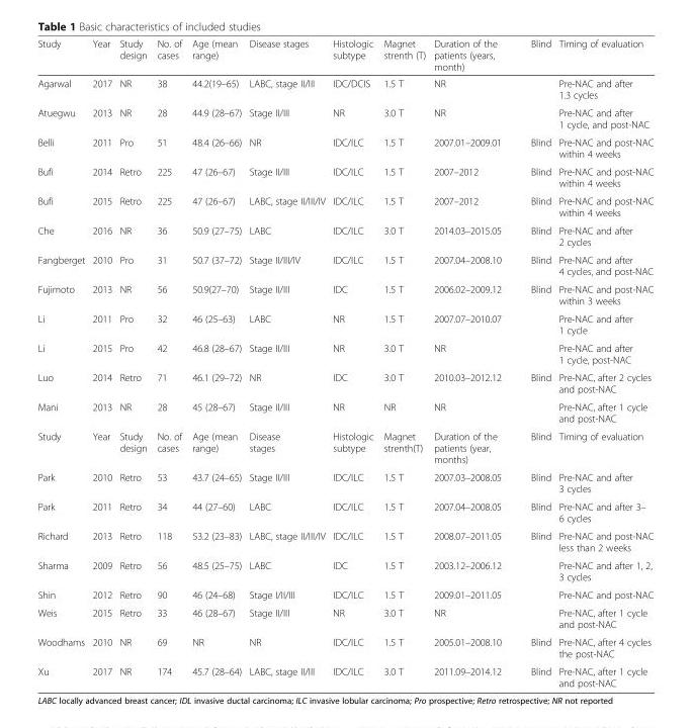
<table><thead><tr><td>Study</td><td>Year</td><td>Study design</td><td>No. of cases</td><td>Age (mean range)</td><td>Disease stages</td><td>Histologic subtype</td><td>Magnet strenth (T)</td><td>Duration of the patients (years, month)</td><td>Blind</td><td>Timing of evaluation</td></tr></thead><tbody><tr><td>Agarwal</td><td>2017</td><td>NR</td><td>38</td><td>44.2(19–65)</td><td>LABC, stage II/III</td><td>IDC/DCIS</td><td>1.5 T</td><td>NR</td><td></td><td>Pre-NAC and after 1.3 cycles</td></tr><tr><td>Atuegwu</td><td>2013</td><td>NR</td><td>28</td><td>44.9 (28–67)</td><td>Stage II/III</td><td>NR</td><td>3.0 T</td><td>NR</td><td></td><td>Pre-NAC and after 1 cycle, and post-NAC</td></tr><tr><td>Belli</td><td>2011</td><td>Pro</td><td>51</td><td>48.4 (26–66)</td><td>NR</td><td>IDC/ILC</td><td>1.5 T</td><td>2007.01–2009.01</td><td>Blind</td><td>Pre-NAC and post-NAC within 4 weeks</td></tr><tr><td>Bufi</td><td>2014</td><td>Retro</td><td>225</td><td>47 (26–67)</td><td>Stage II/III</td><td>IDC/ILC</td><td>1.5 T</td><td>2007–2012</td><td>Blind</td><td>Pre-NAC and post-NAC within 4 weeks</td></tr><tr><td>Bufi</td><td>2015</td><td>Retro</td><td>225</td><td>47 (26–67)</td><td>LABC, stage II/III/IV</td><td>IDC/ILC</td><td>1.5 T</td><td>2007–2012</td><td>Blind</td><td>Pre-NAC and post-NAC within 4 weeks</td></tr><tr><td>Che</td><td>2016</td><td>NR</td><td>36</td><td>50.9 (27–75)</td><td>LABC</td><td>IDC/ILC</td><td>3.0 T</td><td>2014.03–2015.05</td><td>Blind</td><td>Pre-NAC and after 2 cycles</td></tr><tr><td>Fangberget</td><td>2010</td><td>Pro</td><td>31</td><td>50.7 (37–72)</td><td>Stage II/III/IV</td><td>IDC/ILC</td><td>1.5 T</td><td>2007.04–2008.10</td><td>Blind</td><td>Pre-NAC and after 4 cycles, and post-NAC</td></tr><tr><td>Fujimoto</td><td>2013</td><td>NR</td><td>56</td><td>50.9(27–70)</td><td>Stage II/III</td><td>IDC</td><td>1.5 T</td><td>2006.02–2009.12</td><td>Blind</td><td>Pre-NAC and post-NAC within 3 weeks</td></tr><tr><td>Li</td><td>2011</td><td>Pro</td><td>32</td><td>46 (25–63)</td><td>LABC</td><td>NR</td><td>1.5 T</td><td>2007.07–2010.07</td><td></td><td>Pre-NAC and after 1 cycle</td></tr><tr><td>Li</td><td>2015</td><td>Pro</td><td>42</td><td>46.8 (28–67)</td><td>Stage II/III</td><td>NR</td><td>3.0 T</td><td>NR</td><td></td><td>Pre-NAC and after 1 cycle, post-NAC</td></tr><tr><td>Luo</td><td>2014</td><td>Retro</td><td>71</td><td>46.1 (29–72)</td><td>NR</td><td>IDC</td><td>3.0 T</td><td>2010.03–2012.12</td><td>Blind</td><td>Pre-NAC, after 2 cycles and post-NAC</td></tr><tr><td>Mani</td><td>2013</td><td>NR</td><td>28</td><td>45 (28–67)</td><td>Stage II/III</td><td>NR</td><td>NR</td><td>NR</td><td></td><td>Pre-NAC, after 1 cycle and post-NAC</td></tr><tr><td>Study</td><td>Year</td><td>Study design</td><td>No. of cases</td><td>Age (mean range)</td><td>Disease stages</td><td>Histologic subtype</td><td>Magnet strenth(T)</td><td>Duration of the patients (year, months)</td><td>Blind</td><td>Timing of evaluation</td></tr><tr><td>Park</td><td>2010</td><td>Retro</td><td>53</td><td>43.7 (24–65)</td><td>Stage II/III</td><td>IDC/ILC</td><td>1.5 T</td><td>2007.03–2008.05</td><td>Blind</td><td>Pre-NAC and after 3 cycles</td></tr><tr><td>Park</td><td>2011</td><td>Retro</td><td>34</td><td>44 (27–60)</td><td>LABC</td><td>IDC/ILC</td><td>1.5 T</td><td>2007.04–2008.05</td><td>Blind</td><td>Pre-NAC and after 3– 6 cycles</td></tr><tr><td>Richard</td><td>2013</td><td>Retro</td><td>118</td><td>53.2 (23–83)</td><td>LABC, stage II/III/IV</td><td>IDC/ILC</td><td>1.5 T</td><td>2008.07–2011.05</td><td>Blind</td><td>Pre-NAC and post-NAC less than 2 weeks</td></tr><tr><td>Sharma</td><td>2009</td><td>Retro</td><td>56</td><td>48.5 (25–75)</td><td>LABC</td><td>IDC</td><td>1.5 T</td><td>2003.12–2006.12</td><td></td><td>Pre-NAC and after 1, 2, 3 cycles</td></tr><tr><td>Shin</td><td>2012</td><td>Retro</td><td>90</td><td>46 (24–68)</td><td>Stage I/II/III</td><td>IDC/ILC</td><td>1.5 T</td><td>2009.01–2011.05</td><td></td><td>Pre-NAC and post-NAC</td></tr><tr><td>Weis</td><td>2015</td><td>Retro</td><td>33</td><td>46 (28–67)</td><td>Stage II/III</td><td>NR</td><td>3.0 T</td><td>NR</td><td></td><td>Pre-NAC, after 1 cycle and post-NAC</td></tr><tr><td>Woodhams</td><td>2010</td><td>NR</td><td>69</td><td>NR</td><td>NR</td><td>IDC/ILC</td><td>1.5 T</td><td>2005.01–2008.10</td><td>Blind</td><td>Pre-NAC, after 4 cycles the post-NAC</td></tr><tr><td>Xu</td><td>2017</td><td>NR</td><td>174</td><td>45.7 (28–64)</td><td>LABC, stage II/III</td><td>IDC/ILC</td><td>3.0 T</td><td>2011.09–2014.12</td><td>Blind</td><td>Pre-NAC, after 1 cycle and post-NAC</td></tr></tbody></table>